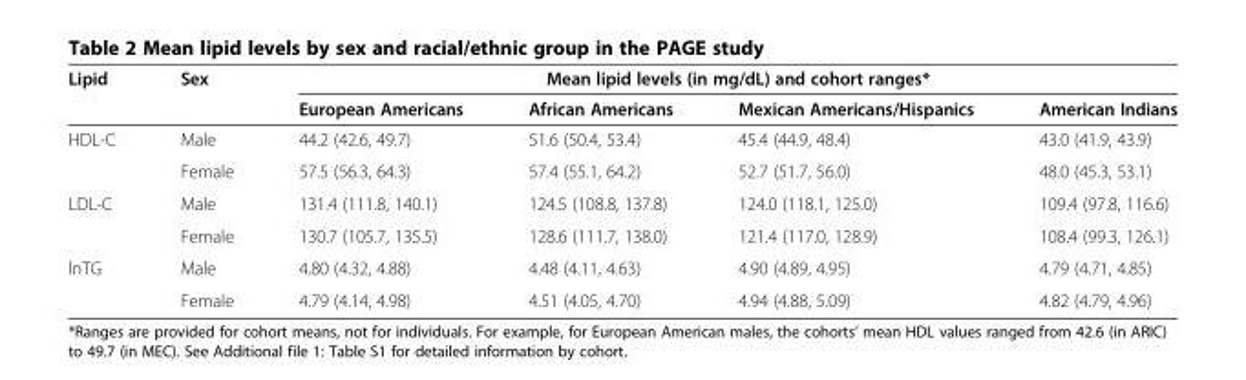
<table><thead><tr><td rowspan="2">Lipid</td><td rowspan="2">Sex</td><td colspan="4">Mean lipid levels (in mg/dL) and cohort ranges*</td></tr><tr><td>European Americans</td><td>African Americans</td><td>Mexican Americans/Hispanics</td><td>American Indians</td></tr></thead><tbody><tr><td rowspan="2">HDL-C</td><td>Male</td><td>44.2 (42.6, 49.7)</td><td>51.6 (50.4, 53.4)</td><td>45.4 (44.9, 48.4)</td><td>43.0 (41.9, 43.9)</td></tr><tr><td>Female</td><td>57.5 (56.3, 64.3)</td><td>57.4 (55.1, 64.2)</td><td>52.7 (51.7, 56.0)</td><td>48.0 (45.3, 53.1)</td></tr><tr><td rowspan="2">LDL-C</td><td>Male</td><td>131.4 (111.8, 140.1)</td><td>124.5 (108.8, 137.8)</td><td>124.0 (118.1, 125.0)</td><td>109.4 (97.8, 116.6)</td></tr><tr><td>Female</td><td>130.7 (105.7, 135.5)</td><td>128.6 (111.7, 138.0)</td><td>121.4 (117.0, 128.9)</td><td>108.4 (99.3, 126.1)</td></tr><tr><td rowspan="2">lnTG</td><td>Male</td><td>4.80 (4.32, 4.88)</td><td>4.48 (4.11, 4.63)</td><td>4.90 (4.89, 4.95)</td><td>4.79 (4.71, 4.85)</td></tr><tr><td>Female</td><td>4.79 (4.14, 4.98)</td><td>4.51 (4.05, 4.70)</td><td>4.94 (4.88, 5.09)</td><td>4.82 (4.79, 4.96)</td></tr></tbody></table>